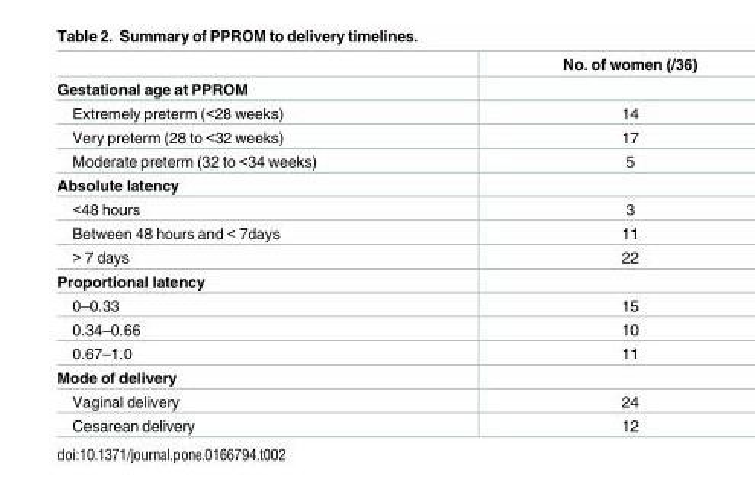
<table><thead><tr><td></td><td>No. of women (/36)</td></tr></thead><tbody><tr><td colspan="2">Gestational age at PPROM</td></tr><tr><td>Extremely preterm (&lt;28 weeks)</td><td>14</td></tr><tr><td>Very preterm (28 to &lt;32 weeks)</td><td>17</td></tr><tr><td>Moderate preterm (32 to &lt;34 weeks)</td><td>5</td></tr><tr><td colspan="2">Absolute latency</td></tr><tr><td>&lt;48 hours</td><td>3</td></tr><tr><td>Between 48 hours and &lt; 7days</td><td>11</td></tr><tr><td>&gt; 7 days</td><td>22</td></tr><tr><td colspan="2">Proportional latency</td></tr><tr><td>0–0.33</td><td>15</td></tr><tr><td>0.34–0.66</td><td>10</td></tr><tr><td>0.67–1.0</td><td>11</td></tr><tr><td colspan="2">Mode of delivery</td></tr><tr><td>Vaginal delivery</td><td>24</td></tr><tr><td>Cesarean delivery</td><td>12</td></tr></tbody></table>